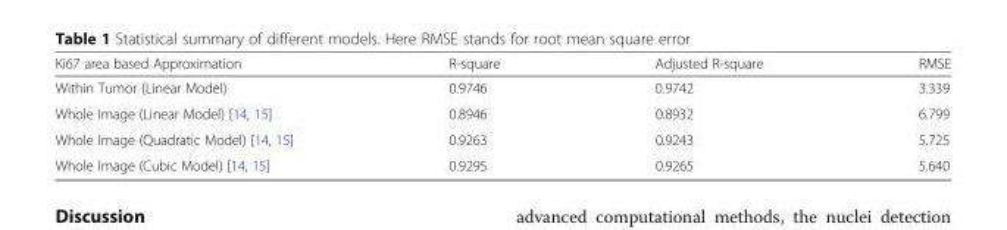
<table><thead><tr><td>Ki67 area based Approximation</td><td>R-square</td><td>Adjusted R-square</td><td>RMSE</td></tr></thead><tbody><tr><td>Within Tumor (Linear Model)</td><td>0.9746</td><td>0.9742</td><td>3.339</td></tr><tr><td>Whole Image (Linear Model) [14, 15]</td><td>0.8946</td><td>0.8932</td><td>6.799</td></tr><tr><td>Whole Image (Quadratic Model) [14, 15]</td><td>0.9263</td><td>0.9243</td><td>5.725</td></tr><tr><td>Whole Image (Cubic Model) [14, 15]</td><td>0.9295</td><td>0.9265</td><td>5.640</td></tr></tbody></table>